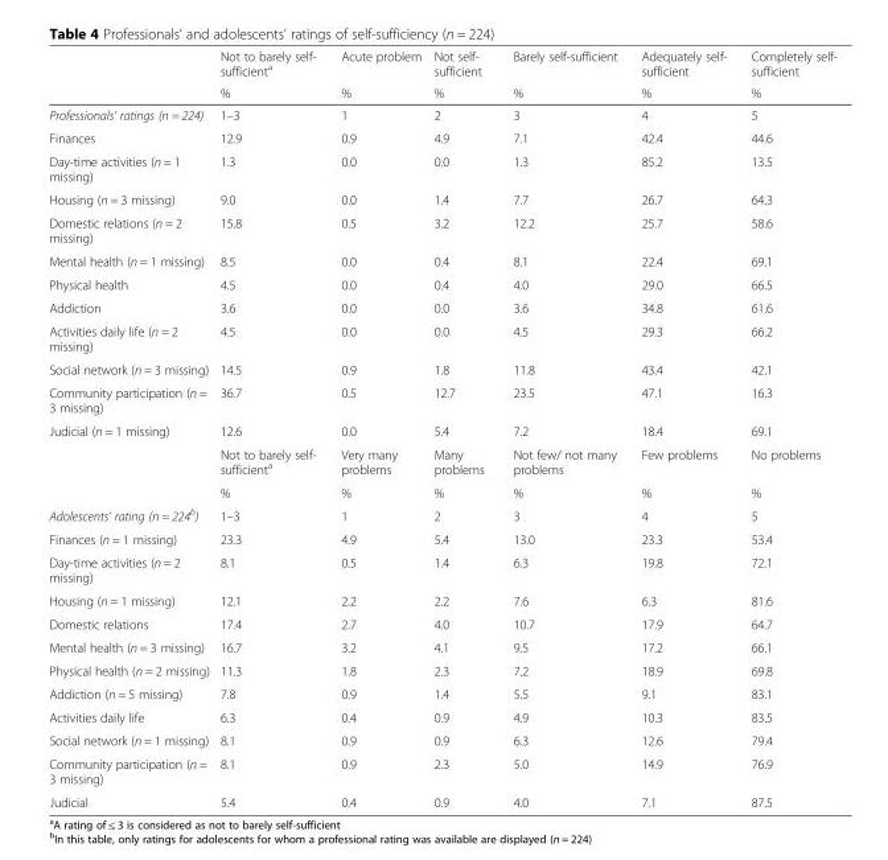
<table><thead><tr><td rowspan="2"></td><td rowspan="2">Not to barely self- sufficient<sup>a</sup> %</td><td rowspan="2">Acute problem %</td><td rowspan="2">Not self- sufficient %</td><td rowspan="2">Barely self-sufficient %</td><td rowspan="2">Adequately self- sufficient %</td><td rowspan="2">Completely self- sufficient %</td></tr><tr></tr></thead><tbody><tr><td>Professionals’ ratings (n = 224)</td><td>1–3</td><td>1</td><td>2</td><td>3</td><td>4</td><td>5</td></tr><tr><td>Finances</td><td>12.9</td><td>0.9</td><td>4.9</td><td>7.1</td><td>42.4</td><td>44.6</td></tr><tr><td>Day-time activities (n = 1 missing)</td><td>1.3</td><td>0.0</td><td>0.0</td><td>1.3</td><td>85.2</td><td>13.5</td></tr><tr><td>Housing (n = 3 missing)</td><td>9.0</td><td>0.0</td><td>1.4</td><td>7.7</td><td>26.7</td><td>64.3</td></tr><tr><td>Domestic relations (n = 2 missing)</td><td>15.8</td><td>0.5</td><td>3.2</td><td>12.2</td><td>25.7</td><td>58.6</td></tr><tr><td>Mental health (n = 1 missing)</td><td>8.5</td><td>0.0</td><td>0.4</td><td>8.1</td><td>22.4</td><td>69.1</td></tr><tr><td>Physical health</td><td>4.5</td><td>0.0</td><td>0.4</td><td>4.0</td><td>29.0</td><td>66.5</td></tr><tr><td>Addiction</td><td>3.6</td><td>0.0</td><td>0.0</td><td>3.6</td><td>34.8</td><td>61.6</td></tr><tr><td>Activities daily life (n = 2 missing)</td><td>4.5</td><td>0.0</td><td>0.0</td><td>4.5</td><td>29.3</td><td>66.2</td></tr><tr><td>Social network (n = 3 missing)</td><td>14.5</td><td>0.9</td><td>1.8</td><td>11.8</td><td>43.4</td><td>42.1</td></tr><tr><td>Community participation (n = 3 missing)</td><td>36.7</td><td>0.5</td><td>12.7</td><td>23.5</td><td>47.1</td><td>16.3</td></tr><tr><td rowspan="3">Judicial (n = 1 missing)</td><td>12.6</td><td>0.0</td><td>5.4</td><td>7.2</td><td>18.4</td><td>69.1</td></tr><tr><td>Not to barely self- sufficient<sup>a</sup></td><td>Very many problems</td><td>Many problems</td><td>Not few/ not many problems</td><td>Few problems</td><td>No problems</td></tr><tr><td>%</td><td>%</td><td>%</td><td>%</td><td>%</td><td>%</td></tr><tr><td>Adolescents’ rating (n = 224<sup>b</sup>)</td><td>1–3</td><td>1</td><td>2</td><td>3</td><td>4</td><td>5</td></tr><tr><td>Finances (n = 1 missing)</td><td>23.3</td><td>4.9</td><td>5.4</td><td>13.0</td><td>23.3</td><td>53.4</td></tr><tr><td>Day-time activities (n = 2 missing)</td><td>8.1</td><td>0.5</td><td>1.4</td><td>6.3</td><td>19.8</td><td>72.1</td></tr><tr><td>Housing (n = 1 missing)</td><td>12.1</td><td>2.2</td><td>2.2</td><td>7.6</td><td>6.3</td><td>81.6</td></tr><tr><td>Domestic relations</td><td>17.4</td><td>2.7</td><td>4.0</td><td>10.7</td><td>17.9</td><td>64.7</td></tr><tr><td>Mental health (n = 3 missing)</td><td>16.7</td><td>3.2</td><td>4.1</td><td>9.5</td><td>17.2</td><td>66.1</td></tr><tr><td>Physical health (n = 2 missing)</td><td>11.3</td><td>1.8</td><td>2.3</td><td>7.2</td><td>18.9</td><td>69.8</td></tr><tr><td>Addiction (n = 5 missing)</td><td>7.8</td><td>0.9</td><td>1.4</td><td>5.5</td><td>9.1</td><td>83.1</td></tr><tr><td>Activities daily life</td><td>6.3</td><td>0.4</td><td>0.9</td><td>4.9</td><td>10.3</td><td>83.5</td></tr><tr><td>Social network (n = 1 missing)</td><td>8.1</td><td>0.9</td><td>0.9</td><td>6.3</td><td>12.6</td><td>79.4</td></tr><tr><td>Community participation (n = 3 missing)</td><td>8.1</td><td>0.9</td><td>2.3</td><td>5.0</td><td>14.9</td><td>76.9</td></tr><tr><td>Judicial</td><td>5.4</td><td>0.4</td><td>0.9</td><td>4.0</td><td>7.1</td><td>87.5</td></tr></tbody></table>